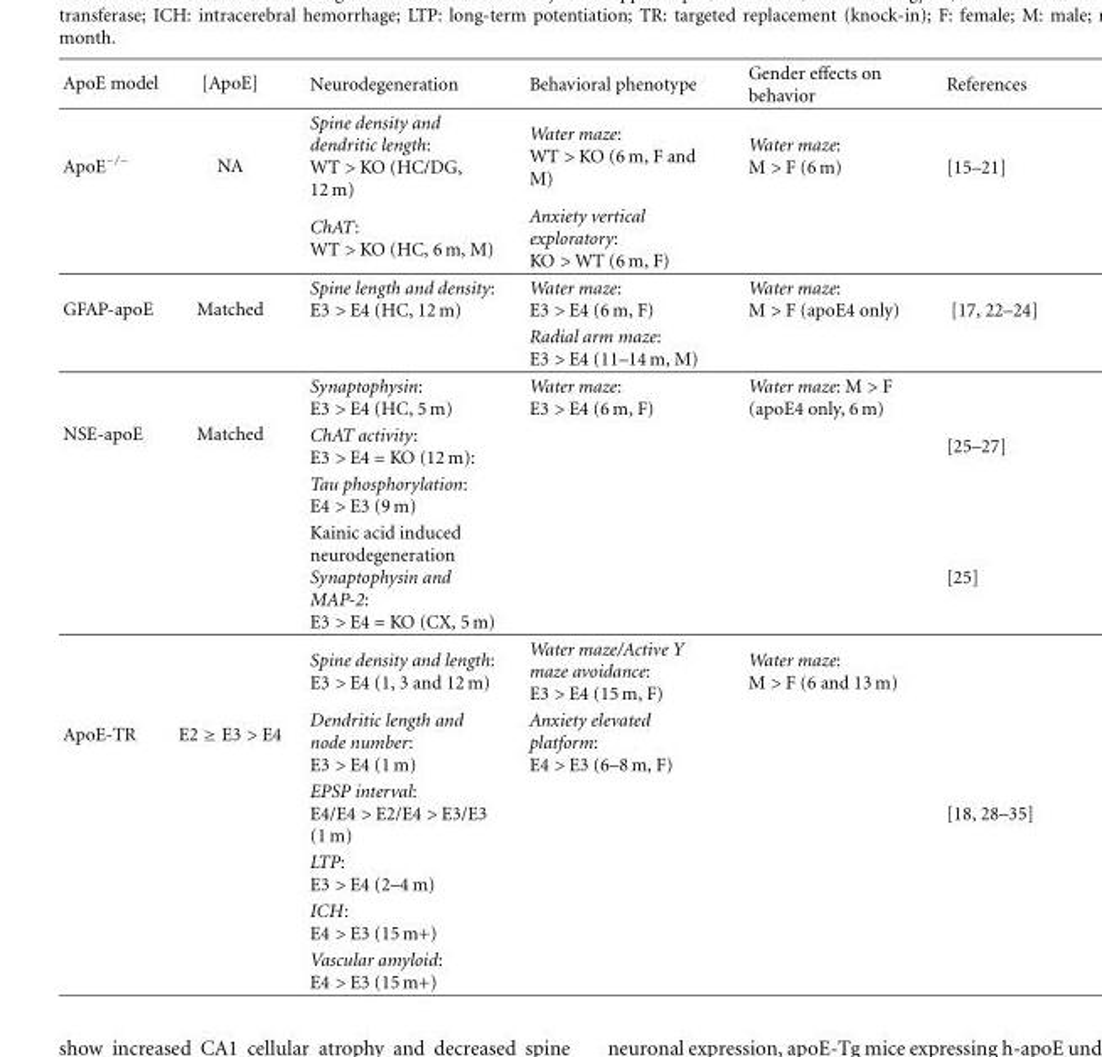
<table><thead><tr><td>ApoE model</td><td>[ApoE]</td><td>Neurodegeneration</td><td>Behavioral phenotype</td><td>Gender effects on behavior</td><td>References</td></tr></thead><tbody><tr><td rowspan="2">ApoE<sup>−/−</sup></td><td rowspan="2">NA</td><td>Spine density and dendritic length: WT &gt; KO (HC/DG, 12 m)</td><td>Water maze: WT &gt; KO (6 m, F and M)</td><td>Water maze: M &gt; F (6 m)</td><td rowspan="2">[15–21]</td></tr><tr><td>ChAT: WT &gt; KO (HC, 6 m, M)</td><td>Anxiety vertical exploratory: KO &gt; WT (6 m, F)</td><td></td></tr><tr><td rowspan="2">GFAP-apoE</td><td rowspan="2">Matched</td><td>Spine length and density: E3 &gt; E4 (HC, 12 m)</td><td>Water maze: E3 &gt; E4 (6 m, F)</td><td>Water maze: M &gt; F (apoE4 only)</td><td rowspan="2">[17, 22–24]</td></tr><tr><td></td><td>Radial arm maze: E3 &gt; E4 (11–14 m, M)</td><td></td></tr><tr><td rowspan="4">NSE-apoE</td><td rowspan="4">Matched</td><td>Synaptophysin: E3 &gt; E4 (HC, 5 m)</td><td>Water maze: E3 &gt; E4 (6 m, F)</td><td>Water maze: M &gt; F (apoE4 only, 6 m)</td><td></td></tr><tr><td>ChAT activity: E3 &gt; E4 = KO (12 m):</td><td></td><td></td><td>[25–27]</td></tr><tr><td>Tau phosphorylation: E4 &gt; E3 (9 m)</td><td></td><td></td><td></td></tr><tr><td>Kainic acid induced neurodegeneration Synaptophysin and MAP-2: E3 &gt; E4 = KO (CX, 5 m)</td><td></td><td></td><td>[25]</td></tr><tr><td rowspan="6">ApoE-TR</td><td rowspan="6">E2 ≥ E3 &gt; E4</td><td>Spine density and length: E3 &gt; E4 (1, 3 and 12 m)</td><td>Water maze/Active Y maze avoidance: E3 &gt; E4 (15 m, F)</td><td>Water maze: M &gt; F (6 and 13 m)</td><td></td></tr><tr><td>Dendritic length and node number: E3 &gt; E4 (1 m)</td><td>Anxiety elevated platform: E4 &gt; E3 (6–8 m, F)</td><td></td><td></td></tr><tr><td>EPSP interval: E4/E4 &gt; E2/E4 &gt; E3/E3 (1 m)</td><td></td><td></td><td>[18, 28–35]</td></tr><tr><td>LTP: E3 &gt; E4 (2–4 m)</td><td></td><td></td><td></td></tr><tr><td>ICH: E4 &gt; E3 (15 m+)</td><td></td><td></td><td></td></tr><tr><td>Vascular amyloid: E4 &gt; E3 (15 m+)</td><td></td><td></td><td></td></tr></tbody></table>